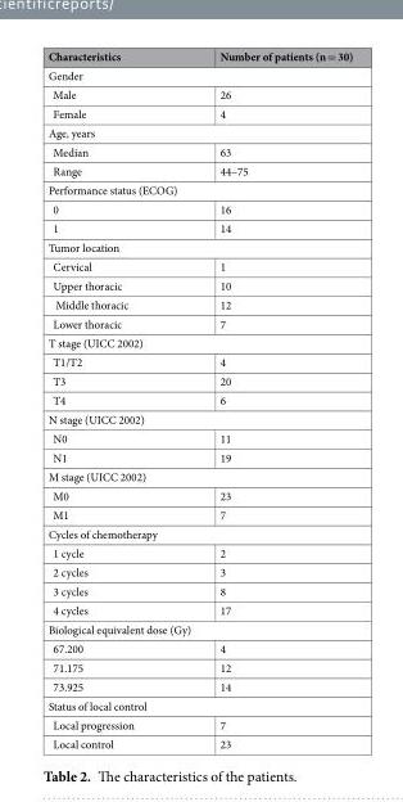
<table><thead><tr><td>Characteristics</td><td>Number of patients (n = 30)</td></tr></thead><tbody><tr><td colspan="2">Gender</td></tr><tr><td>Male</td><td>26</td></tr><tr><td>Female</td><td>4</td></tr><tr><td colspan="2">Age, years</td></tr><tr><td>Median</td><td>63</td></tr><tr><td>Range</td><td>44–75</td></tr><tr><td colspan="2">Performance status (ECOG)</td></tr><tr><td>0</td><td>16</td></tr><tr><td>1</td><td>14</td></tr><tr><td colspan="2">Tumor location</td></tr><tr><td>Cervical</td><td>1</td></tr><tr><td>Upper thoracic</td><td>10</td></tr><tr><td>Middle thoracic</td><td>12</td></tr><tr><td>Lower thoracic</td><td>7</td></tr><tr><td colspan="2">T stage (UICC 2002)</td></tr><tr><td>T1/T2</td><td>4</td></tr><tr><td>T3</td><td>20</td></tr><tr><td>T4</td><td>6</td></tr><tr><td colspan="2">N stage (UICC 2002)</td></tr><tr><td>N0</td><td>11</td></tr><tr><td>N1</td><td>19</td></tr><tr><td colspan="2">M stage (UICC 2002)</td></tr><tr><td>M0</td><td>23</td></tr><tr><td>M1</td><td>7</td></tr><tr><td colspan="2">Cycles of chemotherapy</td></tr><tr><td>1 cycle</td><td>2</td></tr><tr><td>2 cycles</td><td>3</td></tr><tr><td>3 cycles</td><td>8</td></tr><tr><td>4 cycles</td><td>17</td></tr><tr><td colspan="2">Biological equivalent dose (Gy)</td></tr><tr><td>67.200</td><td>4</td></tr><tr><td>71.175</td><td>12</td></tr><tr><td>73.925</td><td>14</td></tr><tr><td colspan="2">Status of local control</td></tr><tr><td>Local progression</td><td>7</td></tr><tr><td>Local control</td><td>23</td></tr></tbody></table>